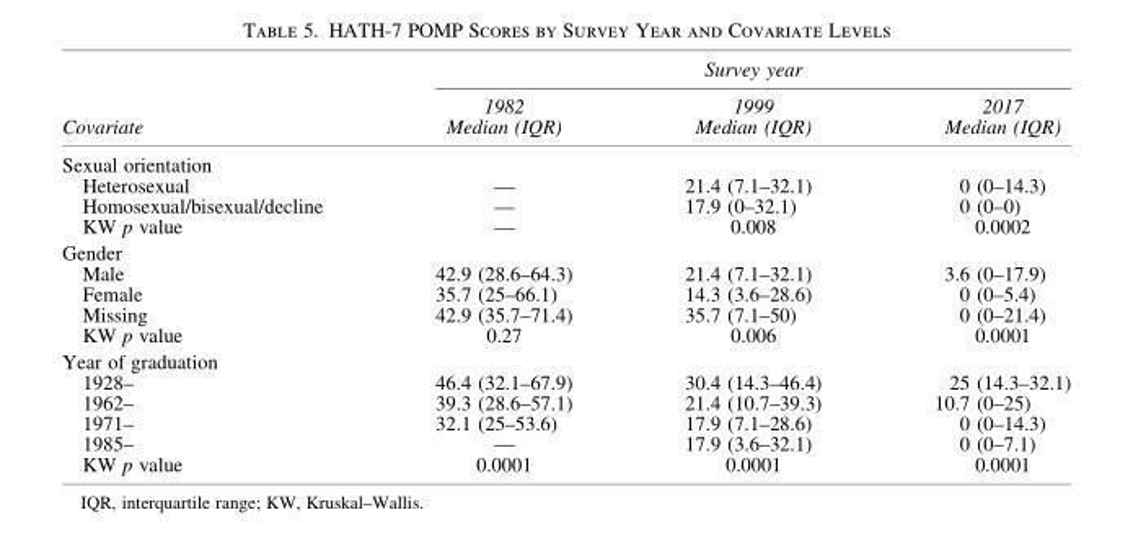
<table><thead><tr><td rowspan="3">Covariate</td><td colspan="3">Survey year</td></tr><tr><td rowspan="2">1982 Median (IQR)</td><td rowspan="2">1999 Median (IQR)</td><td rowspan="2">2017 Median (IQR)</td></tr><tr></tr></thead><tbody><tr><td colspan="4">Sexual orientation</td></tr><tr><td>Heterosexual</td><td>—</td><td>21.4 (7.1–32.1)</td><td>0 (0–14.3)</td></tr><tr><td>Homosexual/bisexual/decline</td><td>—</td><td>17.9 (0–32.1)</td><td>0 (0–0)</td></tr><tr><td>KW p value</td><td>—</td><td>0.008</td><td>0.0002</td></tr><tr><td colspan="4">Gender</td></tr><tr><td>Male</td><td>42.9 (28.6–64.3)</td><td>21.4 (7.1–32.1)</td><td>3.6 (0–17.9)</td></tr><tr><td>Female</td><td>35.7 (25–66.1)</td><td>14.3 (3.6–28.6)</td><td>0 (0–5.4)</td></tr><tr><td>Missing</td><td>42.9 (35.7–71.4)</td><td>35.7 (7.1–50)</td><td>0 (0–21.4)</td></tr><tr><td>KW p value</td><td>0.27</td><td>0.006</td><td>0.0001</td></tr><tr><td colspan="4">Year of graduation</td></tr><tr><td>1928–</td><td>46.4 (32.1–67.9)</td><td>30.4 (14.3–46.4)</td><td>25 (14.3–32.1)</td></tr><tr><td>1962–</td><td>39.3 (28.6–57.1)</td><td>21.4 (10.7–39.3)</td><td>10.7 (0–25)</td></tr><tr><td>1971–</td><td>32.1 (25–53.6)</td><td>17.9 (7.1–28.6)</td><td>0 (0–14.3)</td></tr><tr><td>1985–</td><td>—</td><td>17.9 (3.6–32.1)</td><td>0 (0–7.1)</td></tr><tr><td>KW p value</td><td>0.0001</td><td>0.0001</td><td>0.0001</td></tr></tbody></table>